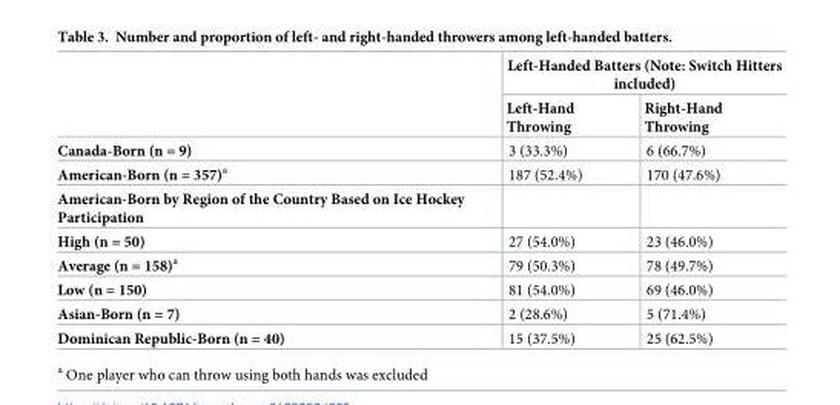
<table><thead><tr><td rowspan="2"></td><td colspan="2">Left-Handed Batters (Note: Switch Hitters included)</td></tr><tr><td>Left-Hand Throwing</td><td>Right-Hand Throwing</td></tr></thead><tbody><tr><td>Canada-Born (n = 9)</td><td>3 (33.3%)</td><td>6 (66.7%)</td></tr><tr><td>American-Born (n = 357)<sup>a</sup></td><td>187 (52.4%)</td><td>170 (47.6%)</td></tr><tr><td colspan="3">American-Born by Region of the Country Based on Ice Hockey Participation</td></tr><tr><td>High (n = 50)</td><td>27 (54.0%)</td><td>23 (46.0%)</td></tr><tr><td>Average (n = 158)<sup>a</sup></td><td>79 (50.3%)</td><td>78 (49.7%)</td></tr><tr><td>Low (n = 150)</td><td>81 (54.0%)</td><td>69 (46.0%)</td></tr><tr><td>Asian-Born (n = 7)</td><td>2 (28.6%)</td><td>5 (71.4%)</td></tr><tr><td>Dominican Republic-Born (n = 40)</td><td>15 (37.5%)</td><td>25 (62.5%)</td></tr></tbody></table>